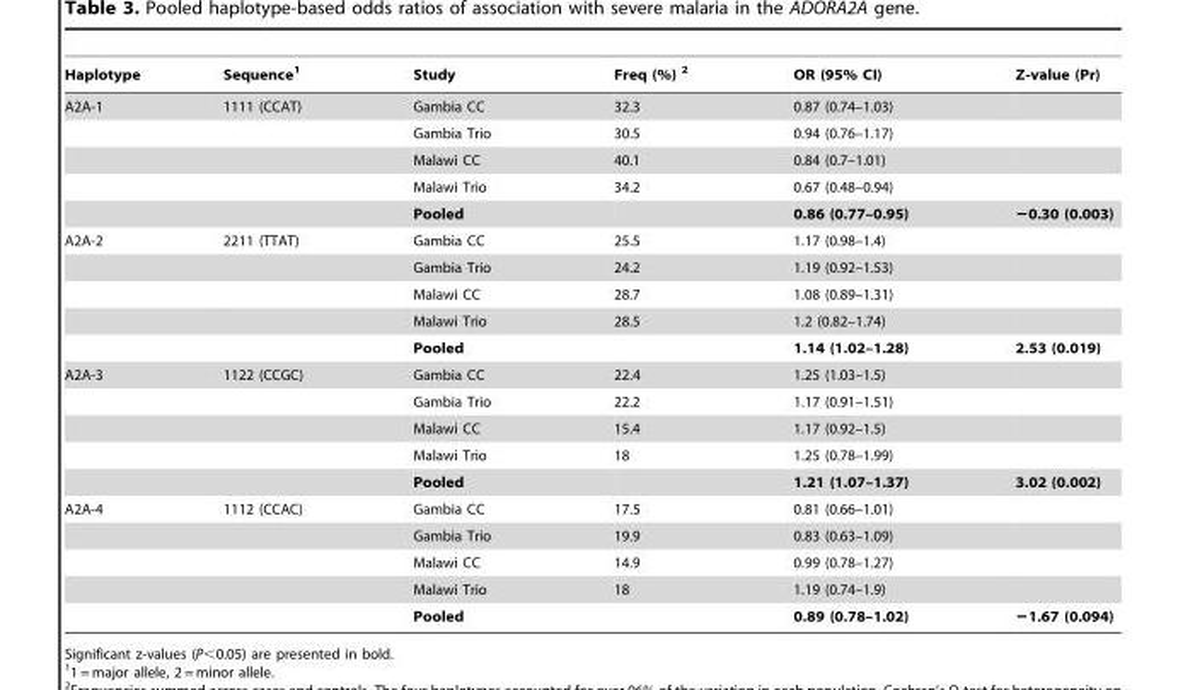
<table><thead><tr><td>Haplotype</td><td>Sequence<sup>1</sup></td><td>Study</td><td>Freq (%) 2</td><td>OR (95% CI)</td><td>Z-value (Pr)</td></tr></thead><tbody><tr><td rowspan="5">A2A-1</td><td>1111 (CCAT)</td><td>Gambia CC</td><td>32.3</td><td>0.87 (0.74–1.03)</td><td></td></tr><tr><td></td><td>Gambia Trio</td><td>30.5</td><td>0.94 (0.76–1.17)</td><td></td></tr><tr><td></td><td>Malawi CC</td><td>40.1</td><td>0.84 (0.7–1.01)</td><td></td></tr><tr><td></td><td>Malawi Trio</td><td>34.2</td><td>0.67 (0.48–0.94)</td><td></td></tr><tr><td></td><td>Pooled</td><td></td><td>0.86 (0.77–0.95)</td><td>−0.30 (0.003)</td></tr><tr><td rowspan="5">A2A-2</td><td>2211 (TTAT)</td><td>Gambia CC</td><td>25.5</td><td>1.17 (0.98–1.4)</td><td></td></tr><tr><td></td><td>Gambia Trio</td><td>24.2</td><td>1.19 (0.92–1.53)</td><td></td></tr><tr><td></td><td>Malawi CC</td><td>28.7</td><td>1.08 (0.89–1.31)</td><td></td></tr><tr><td></td><td>Malawi Trio</td><td>28.5</td><td>1.2 (0.82–1.74)</td><td></td></tr><tr><td></td><td>Pooled</td><td></td><td>1.14 (1.02–1.28)</td><td>2.53 (0.019)</td></tr><tr><td rowspan="5">A2A-3</td><td>1122 (CCGC)</td><td>Gambia CC</td><td>22.4</td><td>1.25 (1.03–1.5)</td><td></td></tr><tr><td></td><td>Gambia Trio</td><td>22.2</td><td>1.17 (0.91–1.51)</td><td></td></tr><tr><td></td><td>Malawi CC</td><td>15.4</td><td>1.17 (0.92–1.5)</td><td></td></tr><tr><td></td><td>Malawi Trio</td><td>18</td><td>1.25 (0.78–1.99)</td><td></td></tr><tr><td></td><td>Pooled</td><td></td><td>1.21 (1.07–1.37)</td><td>3.02 (0.002)</td></tr><tr><td rowspan="5">A2A-4</td><td>1112 (CCAC)</td><td>Gambia CC</td><td>17.5</td><td>0.81 (0.66–1.01)</td><td></td></tr><tr><td></td><td>Gambia Trio</td><td>19.9</td><td>0.83 (0.63–1.09)</td><td></td></tr><tr><td></td><td>Malawi CC</td><td>14.9</td><td>0.99 (0.78–1.27)</td><td></td></tr><tr><td></td><td>Malawi Trio</td><td>18</td><td>1.19 (0.74–1.9)</td><td></td></tr><tr><td></td><td>Pooled</td><td></td><td>0.89 (0.78–1.02)</td><td>−1.67 (0.094)</td></tr></tbody></table>